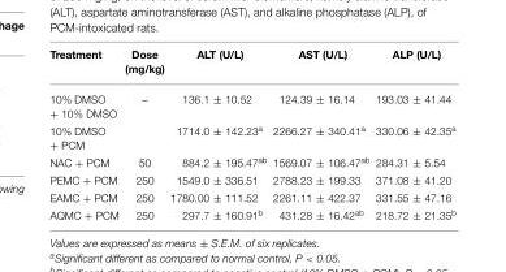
<table><thead><tr><td>Treatment</td><td>Dose (mg/kg)</td><td>ALT (U/L)</td><td>AST (U/L)</td><td>ALP (U/L)</td></tr></thead><tbody><tr><td>10% DMSO + 10% DMSO</td><td>–</td><td>136.1 ± 10.52</td><td>124.39 ± 16.14</td><td>193.03 ± 41.44</td></tr><tr><td>10% DMSO + PCM</td><td></td><td>1714.0 ± 142.23<sup>a</sup></td><td>2266.27 ± 340.41<sup>a</sup></td><td>330.06 ± 42.35<sup>a</sup></td></tr><tr><td>NAC + PCM</td><td>50</td><td>884.2 ± 195.47<sup>ab</sup></td><td>1569.07 ± 106.47<sup>ab</sup></td><td>284.31 ± 5.54</td></tr><tr><td>PEMC + PCM</td><td>250</td><td>1549.0 ± 336.51</td><td>2788.23 ± 199.33</td><td>371.08 ± 41.20</td></tr><tr><td>EAMC + PCM</td><td>250</td><td>1780.00 ± 111.52</td><td>2261.11 ± 422.37</td><td>331.55 ± 47.16</td></tr><tr><td>AQMC + PCM</td><td>250</td><td>297.7 ± 160.91<sup>b</sup></td><td>431.28 ± 16.42<sup>ab</sup></td><td>218.72 ± 21.35<sup>b</sup></td></tr></tbody></table>